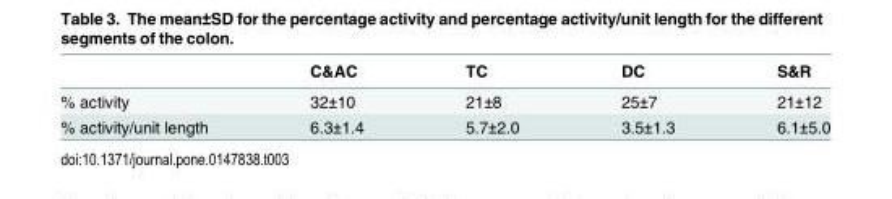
<table><thead><tr><td></td><td>C&amp;AC</td><td>TC</td><td>DC</td><td>S&amp;R</td></tr></thead><tbody><tr><td>% activity</td><td>32±10</td><td>21±8</td><td>25±7</td><td>21±12</td></tr><tr><td>% activity/unit length</td><td>6.3±1.4</td><td>5.7±2.0</td><td>3.5±1.3</td><td>6.1±5.0</td></tr></tbody></table>